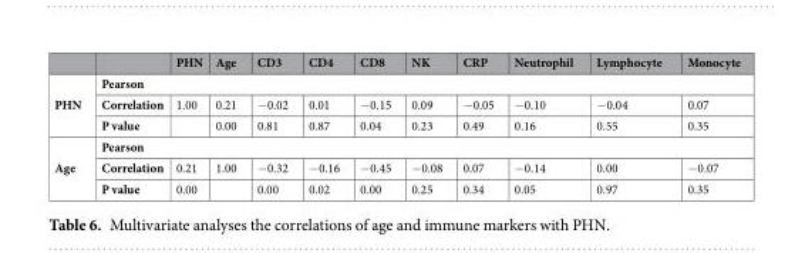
<table><thead><tr><td></td><td></td><td>PHN</td><td>Age</td><td>CD3</td><td>CD4</td><td>CD8</td><td>NK</td><td>CRP</td><td>Neutrophil</td><td>Lymphocyte</td><td>Monocyte</td></tr></thead><tbody><tr><td rowspan="3">PHN</td><td colspan="11">Pearson</td></tr><tr><td>Correlation</td><td>1.00</td><td>0.21</td><td>−0.02</td><td>0.01</td><td>−0.15</td><td>0.09</td><td>−0.05</td><td>−0.10</td><td>−0.04</td><td>0.07</td></tr><tr><td>P value</td><td></td><td>0.00</td><td>0.81</td><td>0.87</td><td>0.04</td><td>0.23</td><td>0.49</td><td>0.16</td><td>0.55</td><td>0.35</td></tr><tr><td rowspan="3">Age</td><td colspan="11">Pearson</td></tr><tr><td>Correlation</td><td>0.21</td><td>1.00</td><td>−0.32</td><td>−0.16</td><td>−0.45</td><td>−0.08</td><td>0.07</td><td>−0.14</td><td>0.00</td><td>−0.07</td></tr><tr><td>P value</td><td>0.00</td><td></td><td>0.00</td><td>0.02</td><td>0.00</td><td>0.25</td><td>0.34</td><td>0.05</td><td>0.97</td><td>0.35</td></tr></tbody></table>